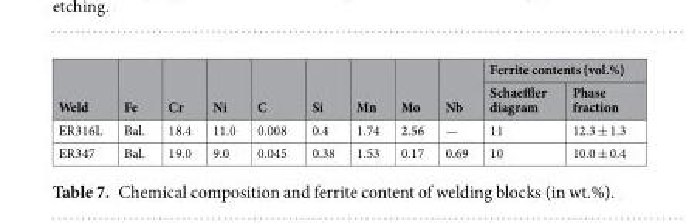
<table><thead><tr><td rowspan="2">Weld</td><td rowspan="2">Fe</td><td rowspan="2">Cr</td><td rowspan="2">Ni</td><td rowspan="2">C</td><td rowspan="2">Si</td><td rowspan="2">Mn</td><td rowspan="2">Mo</td><td rowspan="2">Nb</td><td colspan="2">Ferrite contents (vol.%)</td></tr><tr><td>Schaeffler diagram</td><td>Phase fraction</td></tr></thead><tbody><tr><td>ER316L</td><td>Bal.</td><td>18.4</td><td>11.0</td><td>0.008</td><td>0.4</td><td>1.74</td><td>2.56</td><td>—</td><td>11</td><td>12.3 ± 1.3</td></tr><tr><td>ER347</td><td>Bal.</td><td>19.0</td><td>9.0</td><td>0.045</td><td>0.38</td><td>1.53</td><td>0.17</td><td>0.69</td><td>10</td><td>10.0 ± 0.4</td></tr></tbody></table>